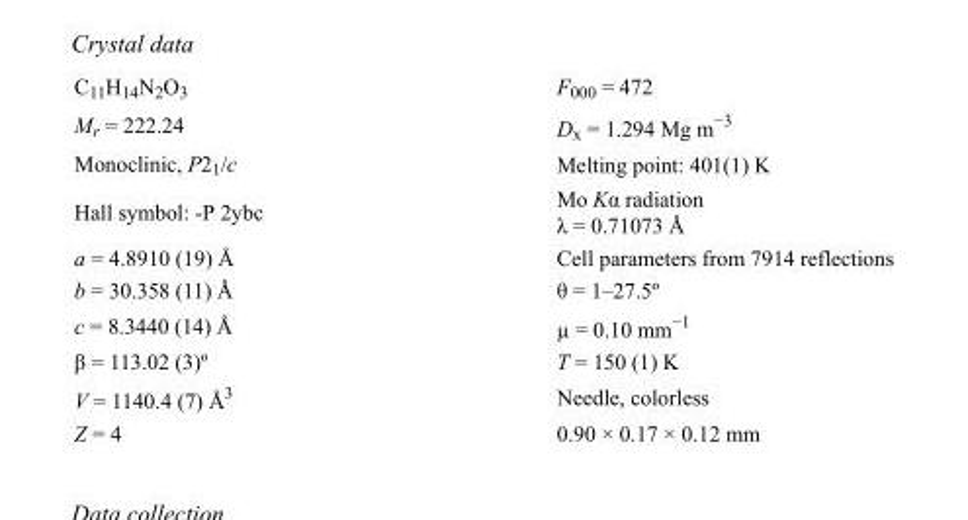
<table><tbody><tr><td>C<sub>11</sub>H<sub>14</sub>N<sub>2</sub>O<sub>3</sub></td><td>F000 = 472</td></tr><tr><td>M<sub>r</sub> = 222.24</td><td>D<sub>x</sub> = 1.294 Mg m<sup>−3</sup></td></tr><tr><td>Monoclinic, P2<sub>1</sub>/c</td><td>Melting point: 401(1) K</td></tr><tr><td>Hall symbol: -P 2ybc</td><td>Mo Kα radiation λ = 0.71073 Å</td></tr><tr><td>a = 4.8910 (19) Å</td><td>Cell parameters from 7914 reflections</td></tr><tr><td>b = 30.358 (11) Å</td><td>θ = 1–27.5º</td></tr><tr><td>c = 8.3440 (14) Å</td><td>µ = 0.10 mm<sup>−1</sup></td></tr><tr><td>β = 113.02 (3)º</td><td>T = 150 (1) K</td></tr><tr><td>V = 1140.4 (7) Å<sup>3</sup></td><td>Needle, colorless</td></tr><tr><td>Z = 4</td><td>0.90 × 0.17 × 0.12 mm</td></tr></tbody></table>